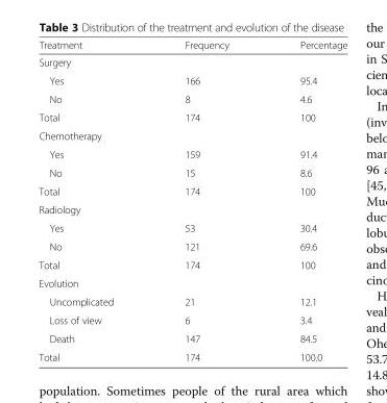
<table><thead><tr><td>Treatment</td><td>Frequency</td><td>Percentage</td></tr></thead><tbody><tr><td colspan="3">Surgery</td></tr><tr><td>Yes</td><td>166</td><td>95.4</td></tr><tr><td>No</td><td>8</td><td>4.6</td></tr><tr><td>Total</td><td>174</td><td>100</td></tr><tr><td colspan="3">Chemotherapy</td></tr><tr><td>Yes</td><td>159</td><td>91.4</td></tr><tr><td>No</td><td>15</td><td>8.6</td></tr><tr><td>Total</td><td>174</td><td>100</td></tr><tr><td colspan="3">Radiology</td></tr><tr><td>Yes</td><td>53</td><td>30.4</td></tr><tr><td>No</td><td>121</td><td>69.6</td></tr><tr><td>Total</td><td>174</td><td>100</td></tr><tr><td colspan="3">Evolution</td></tr><tr><td>Uncomplicated</td><td>21</td><td>12.1</td></tr><tr><td>Loss of view</td><td>6</td><td>3.4</td></tr><tr><td>Death</td><td>147</td><td>84.5</td></tr><tr><td>Total</td><td>174</td><td>100.0</td></tr></tbody></table>